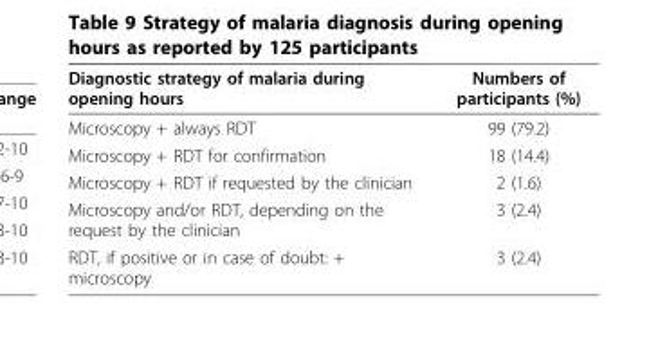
<table><thead><tr><td>Diagnostic strategy of malaria during opening hours</td><td>Numbers of participants (%)</td></tr></thead><tbody><tr><td>Microscopy + always RDT</td><td>99 (79.2)</td></tr><tr><td>Microscopy + RDT for confirmation</td><td>18 (14.4)</td></tr><tr><td>Microscopy + RDT if requested by the clinician</td><td>2 (1.6)</td></tr><tr><td>Microscopy and/or RDT, depending on the request by the clinician</td><td>3 (2.4)</td></tr><tr><td>RDT, if positive or in case of doubt: + microscopy</td><td>3 (2.4)</td></tr></tbody></table>